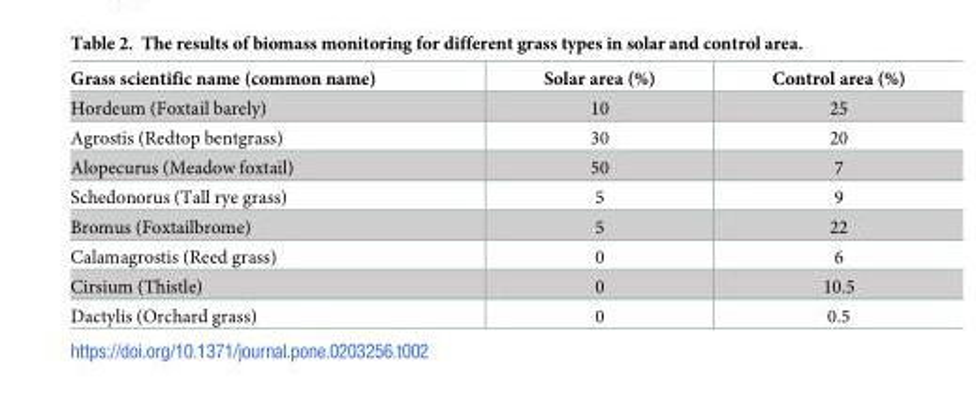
<table><thead><tr><td>Grass scientific name (common name)</td><td>Solar area (%)</td><td>Control area (%)</td></tr></thead><tbody><tr><td>Hordeum (Foxtail barely)</td><td>10</td><td>25</td></tr><tr><td>Agrostis (Redtop bentgrass)</td><td>30</td><td>20</td></tr><tr><td>Alopecurus (Meadow foxtail)</td><td>50</td><td>7</td></tr><tr><td>Schedonorus (Tall rye grass)</td><td>5</td><td>9</td></tr><tr><td>Bromus (Foxtailbrome)</td><td>5</td><td>22</td></tr><tr><td>Calamagrostis (Reed grass)</td><td>0</td><td>6</td></tr><tr><td>Cirsium (Thistle)</td><td>0</td><td>10.5</td></tr><tr><td>Dactylis (Orchard grass)</td><td>0</td><td>0.5</td></tr></tbody></table>